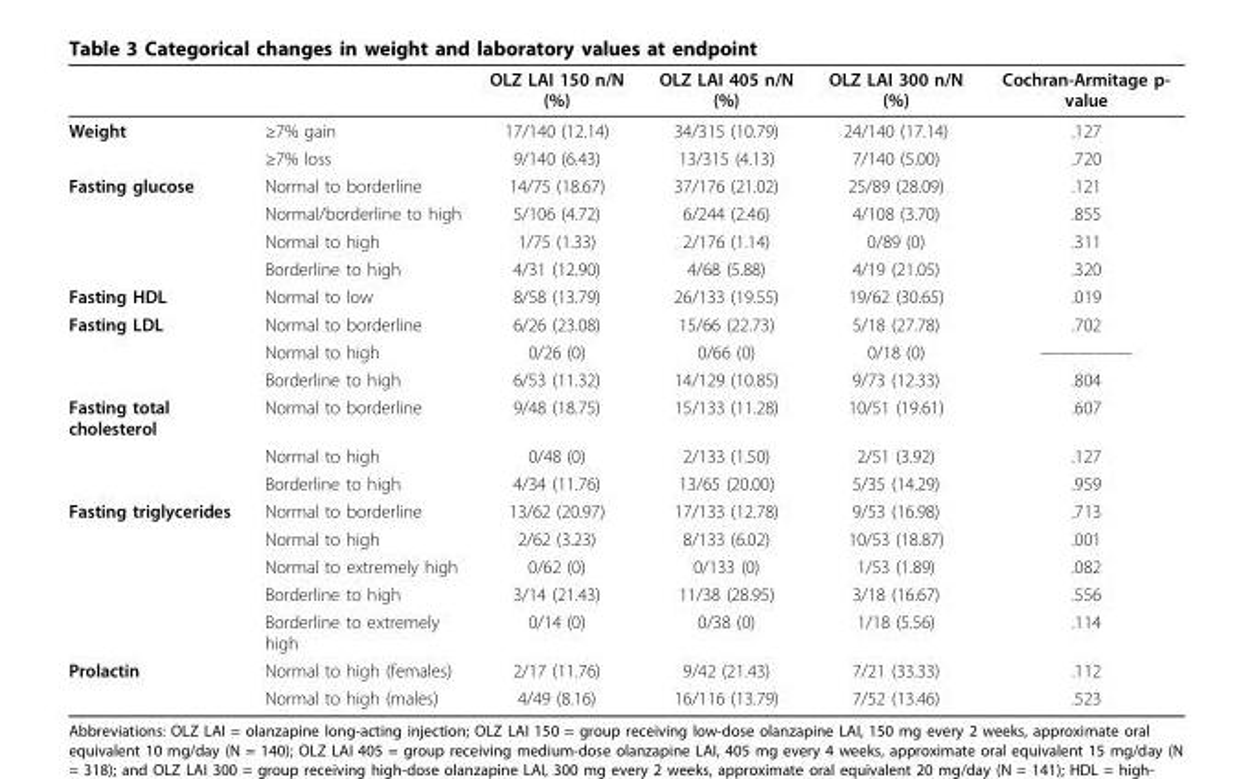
<table><thead><tr><td></td><td></td><td>OLZ LAI 150 n/N (%)</td><td>OLZ LAI 405 n/N (%)</td><td>OLZ LAI 300 n/N (%)</td><td>Cochran-Armitage p- value</td></tr></thead><tbody><tr><td rowspan="2">Weight</td><td>≥7% gain</td><td>17/140 (12.14)</td><td>34/315 (10.79)</td><td>24/140 (17.14)</td><td>.127</td></tr><tr><td>≥7% loss</td><td>9/140 (6.43)</td><td>13/315 (4.13)</td><td>7/140 (5.00)</td><td>.720</td></tr><tr><td rowspan="4">Fasting glucose</td><td>Normal to borderline</td><td>14/75 (18.67)</td><td>37/176 (21.02)</td><td>25/89 (28.09)</td><td>.121</td></tr><tr><td>Normal/borderline to high</td><td>5/106 (4.72)</td><td>6/244 (2.46)</td><td>4/108 (3.70)</td><td>.855</td></tr><tr><td>Normal to high</td><td>1/75 (1.33)</td><td>2/176 (1.14)</td><td>0/89 (0)</td><td>.311</td></tr><tr><td>Borderline to high</td><td>4/31 (12.90)</td><td>4/68 (5.88)</td><td>4/19 (21.05)</td><td>.320</td></tr><tr><td>Fasting HDL</td><td>Normal to low</td><td>8/58 (13.79)</td><td>26/133 (19.55)</td><td>19/62 (30.65)</td><td>.019</td></tr><tr><td rowspan="3">Fasting LDL</td><td>Normal to borderline</td><td>6/26 (23.08)</td><td>15/66 (22.73)</td><td>5/18 (27.78)</td><td>.702</td></tr><tr><td>Normal to high</td><td>0/26 (0)</td><td>0/66 (0)</td><td>0/18 (0)</td><td>—————</td></tr><tr><td>Borderline to high</td><td>6/53 (11.32)</td><td>14/129 (10.85)</td><td>9/73 (12.33)</td><td>.804</td></tr><tr><td rowspan="3">Fasting total cholesterol</td><td>Normal to borderline</td><td>9/48 (18.75)</td><td>15/133 (11.28)</td><td>10/51 (19.61)</td><td>.607</td></tr><tr><td>Normal to high</td><td>0/48 (0)</td><td>2/133 (1.50)</td><td>2/51 (3.92)</td><td>.127</td></tr><tr><td>Borderline to high</td><td>4/34 (11.76)</td><td>13/65 (20.00)</td><td>5/35 (14.29)</td><td>.959</td></tr><tr><td rowspan="5">Fasting triglycerides</td><td>Normal to borderline</td><td>13/62 (20.97)</td><td>17/133 (12.78)</td><td>9/53 (16.98)</td><td>.713</td></tr><tr><td>Normal to high</td><td>2/62 (3.23)</td><td>8/133 (6.02)</td><td>10/53 (18.87)</td><td>.001</td></tr><tr><td>Normal to extremely high</td><td>0/62 (0)</td><td>0/133 (0)</td><td>1/53 (1.89)</td><td>.082</td></tr><tr><td>Borderline to high</td><td>3/14 (21.43)</td><td>11/38 (28.95)</td><td>3/18 (16.67)</td><td>.556</td></tr><tr><td>Borderline to extremely high</td><td>0/14 (0)</td><td>0/38 (0)</td><td>1/18 (5.56)</td><td>.114</td></tr><tr><td rowspan="2">Prolactin</td><td>Normal to high (females)</td><td>2/17 (11.76)</td><td>9/42 (21.43)</td><td>7/21 (33.33)</td><td>.112</td></tr><tr><td>Normal to high (males)</td><td>4/49 (8.16)</td><td>16/116 (13.79)</td><td>7/52 (13.46)</td><td>.523</td></tr></tbody></table>